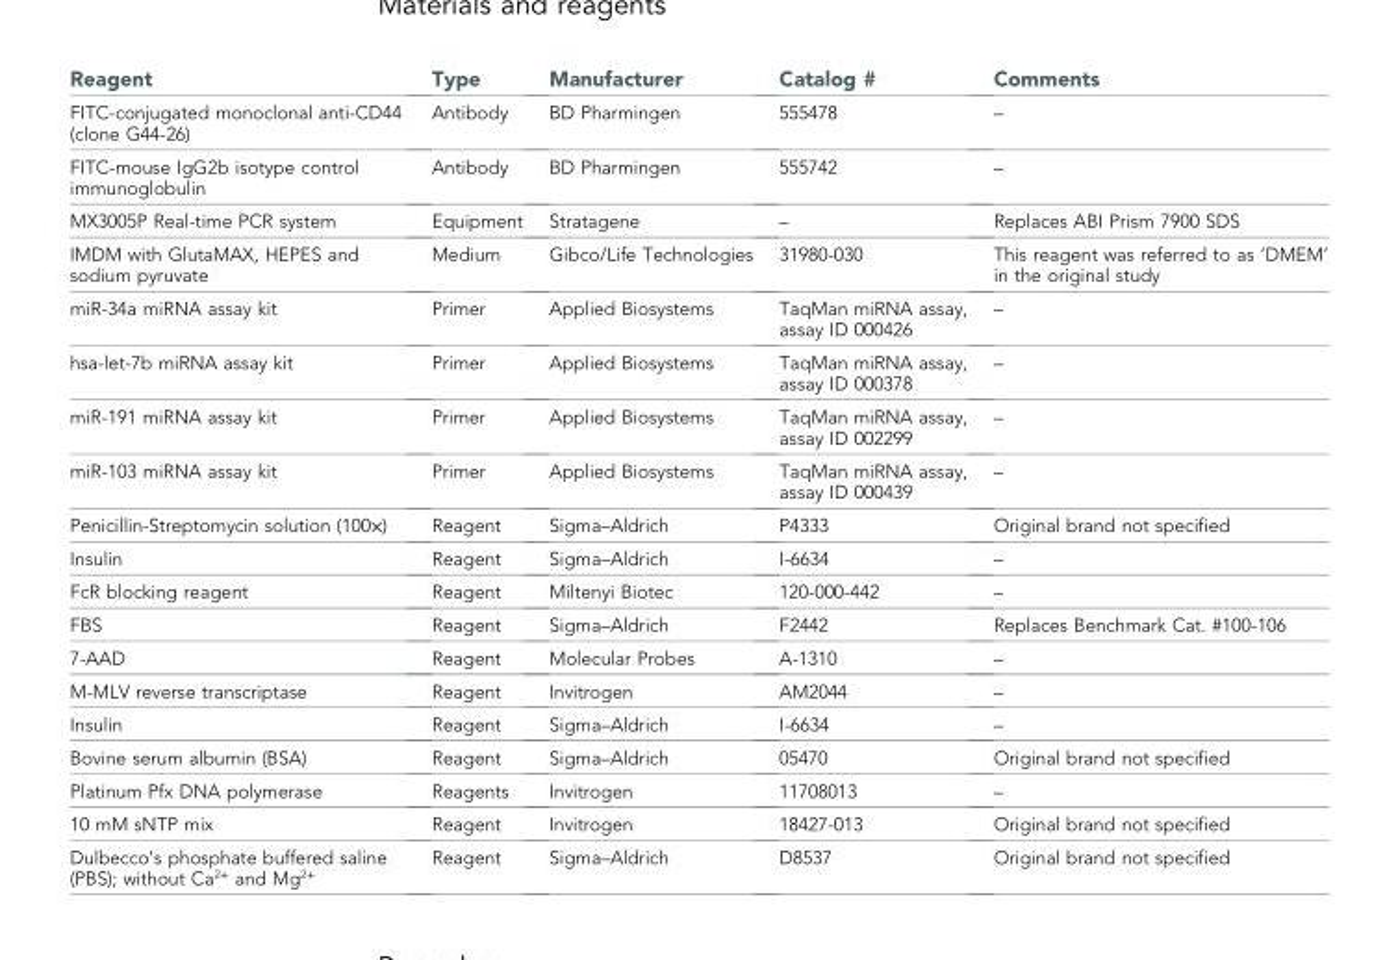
<table><thead><tr><td>Reagent</td><td>Type</td><td>Manufacturer</td><td>Catalog #</td><td>Comments</td></tr></thead><tbody><tr><td>FITC-conjugated monoclonal anti-CD44 (clone G44-26)</td><td>Antibody</td><td>BD Pharmingen</td><td>555478</td><td>–</td></tr><tr><td>FITC-mouse IgG2b isotype control immunoglobulin</td><td>Antibody</td><td>BD Pharmingen</td><td>555742</td><td>–</td></tr><tr><td>MX3005P Real-time PCR system</td><td>Equipment</td><td>Stratagene</td><td>–</td><td>Replaces ABI Prism 7900 SDS</td></tr><tr><td>IMDM with GlutaMAX, HEPES and sodium pyruvate</td><td>Medium</td><td>Gibco/Life Technologies</td><td>31980-030</td><td>This reagent was referred to as ‘DMEM’ in the original study</td></tr><tr><td>miR-34a miRNA assay kit</td><td>Primer</td><td>Applied Biosystems</td><td>TaqMan miRNA assay, assay ID 000426</td><td>–</td></tr><tr><td>hsa-let-7b miRNA assay kit</td><td>Primer</td><td>Applied Biosystems</td><td>TaqMan miRNA assay, assay ID 000378</td><td>–</td></tr><tr><td>miR-191 miRNA assay kit</td><td>Primer</td><td>Applied Biosystems</td><td>TaqMan miRNA assay, assay ID 002299</td><td>–</td></tr><tr><td>miR-103 miRNA assay kit</td><td>Primer</td><td>Applied Biosystems</td><td>TaqMan miRNA assay, assay ID 000439</td><td>–</td></tr><tr><td>Penicillin-Streptomycin solution (100×)</td><td>Reagent</td><td>Sigma–Aldrich</td><td>P4333</td><td>Original brand not specified</td></tr><tr><td>Insulin</td><td>Reagent</td><td>Sigma–Aldrich</td><td>I-6634</td><td>–</td></tr><tr><td>FcR blocking reagent</td><td>Reagent</td><td>Miltenyi Biotec</td><td>120-000-442</td><td>–</td></tr><tr><td>FBS</td><td>Reagent</td><td>Sigma–Aldrich</td><td>F2442</td><td>Replaces Benchmark Cat. #100-106</td></tr><tr><td>7-AAD</td><td>Reagent</td><td>Molecular Probes</td><td>A-1310</td><td>–</td></tr><tr><td>M-MLV reverse transcriptase</td><td>Reagent</td><td>Invitrogen</td><td>AM2044</td><td>–</td></tr><tr><td>Insulin</td><td>Reagent</td><td>Sigma–Aldrich</td><td>I-6634</td><td>–</td></tr><tr><td>Bovine serum albumin (BSA)</td><td>Reagent</td><td>Sigma–Aldrich</td><td>05470</td><td>Original brand not specified</td></tr><tr><td>Platinum Pfx DNA polymerase</td><td>Reagents</td><td>Invitrogen</td><td>11708013</td><td>–</td></tr><tr><td>10 mM sNTP mix</td><td>Reagent</td><td>Invitrogen</td><td>18427-013</td><td>Original brand not specified</td></tr><tr><td>Dulbecco’s phosphate buffered saline (PBS); without Ca<sup>2+</sup> and Mg<sup>2+</sup></td><td>Reagent</td><td>Sigma–Aldrich</td><td>D8537</td><td>Original brand not specified</td></tr></tbody></table>